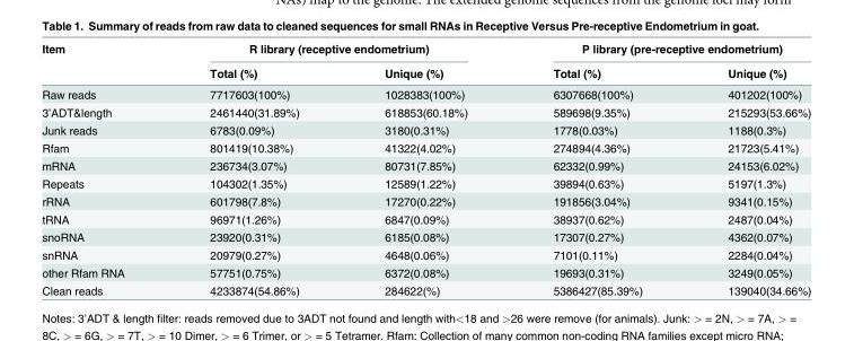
<table><thead><tr><td rowspan="2">Item</td><td colspan="2">R library (receptive endometrium)</td><td colspan="2">P library (pre-receptive endometrium)</td></tr><tr><td>Total (%)</td><td>Unique (%)</td><td>Total (%)</td><td>Unique (%)</td></tr></thead><tbody><tr><td>Raw reads</td><td>7717603(100%)</td><td>1028383(100%)</td><td>6307668(100%)</td><td>401202(100%)</td></tr><tr><td>3’ADT&amp;length</td><td>2461440(31.89%)</td><td>618853(60.18%)</td><td>589698(9.35%)</td><td>215293(53.66%)</td></tr><tr><td>Junk reads</td><td>6783(0.09%)</td><td>3180(0.31%)</td><td>1778(0.03%)</td><td>1188(0.3%)</td></tr><tr><td>Rfam</td><td>801419(10.38%)</td><td>41322(4.02%)</td><td>274894(4.36%)</td><td>21723(5.41%)</td></tr><tr><td>mRNA</td><td>236734(3.07%)</td><td>80731(7.85%)</td><td>62332(0.99%)</td><td>24153(6.02%)</td></tr><tr><td>Repeats</td><td>104302(1.35%)</td><td>12589(1.22%)</td><td>39894(0.63%)</td><td>5197(1.3%)</td></tr><tr><td>rRNA</td><td>601798(7.8%)</td><td>17270(0.22%)</td><td>191856(3.04%)</td><td>9341(0.15%)</td></tr><tr><td>tRNA</td><td>96971(1.26%)</td><td>6847(0.09%)</td><td>38937(0.62%)</td><td>2487(0.04%)</td></tr><tr><td>snoRNA</td><td>23920(0.31%)</td><td>6185(0.08%)</td><td>17307(0.27%)</td><td>4362(0.07%)</td></tr><tr><td>snRNA</td><td>20979(0.27%)</td><td>4648(0.06%)</td><td>7101(0.11%)</td><td>2284(0.04%)</td></tr><tr><td>other Rfam RNA</td><td>57751(0.75%)</td><td>6372(0.08%)</td><td>19693(0.31%)</td><td>3249(0.05%)</td></tr><tr><td>Clean reads</td><td>4233874(54.86%)</td><td>284622(%)</td><td>5386427(85.39%)</td><td>139040(34.66%)</td></tr></tbody></table>